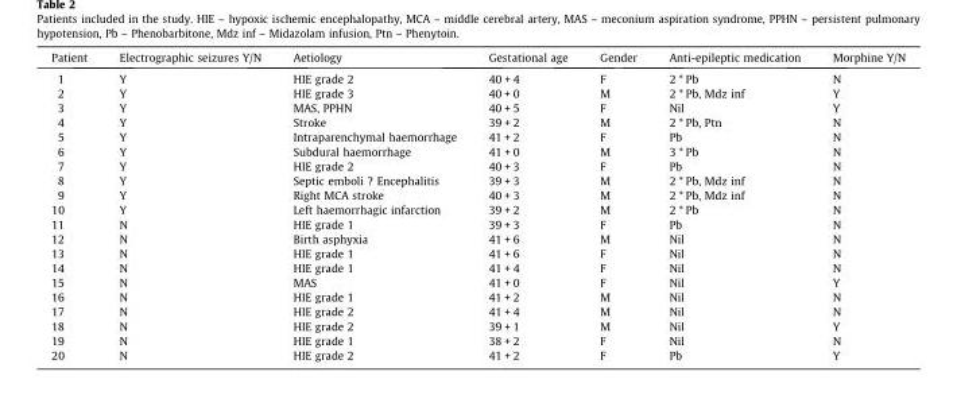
<table><thead><tr><td>Patient</td><td>Electrographic seizures Y/N</td><td>Aetiology</td><td>Gestational age</td><td>Gender</td><td>Anti-epileptic medication</td><td>Morphine Y/N</td></tr></thead><tbody><tr><td>1</td><td>Y</td><td>HIE grade 2</td><td>40 + 4</td><td>F</td><td>2 * Pb</td><td>N</td></tr><tr><td>2</td><td>Y</td><td>HIE grade 3</td><td>40 + 0</td><td>M</td><td>2 * Pb, Mdz inf</td><td>Y</td></tr><tr><td>3</td><td>Y</td><td>MAS, PPHN</td><td>40 + 5</td><td>F</td><td>Nil</td><td>Y</td></tr><tr><td>4</td><td>Y</td><td>Stroke</td><td>39 + 2</td><td>M</td><td>2 * Pb, Ptn</td><td>N</td></tr><tr><td>5</td><td>Y</td><td>Intraparenchymal haemorrhage</td><td>41 + 2</td><td>F</td><td>Pb</td><td>N</td></tr><tr><td>6</td><td>Y</td><td>Subdural haemorrhage</td><td>41 + 0</td><td>M</td><td>3 * Pb</td><td>N</td></tr><tr><td>7</td><td>Y</td><td>HIE grade 2</td><td>40 + 3</td><td>F</td><td>Pb</td><td>N</td></tr><tr><td>8</td><td>Y</td><td>Septic emboli ? Encephalitis</td><td>39 + 3</td><td>M</td><td>2 * Pb, Mdz inf</td><td>N</td></tr><tr><td>9</td><td>Y</td><td>Right MCA stroke</td><td>40 + 3</td><td>M</td><td>2 * Pb, Mdz inf</td><td>N</td></tr><tr><td>10</td><td>Y</td><td>Left haemorrhagic infarction</td><td>39 + 2</td><td>M</td><td>2 * Pb</td><td>N</td></tr><tr><td>11</td><td>N</td><td>HIE grade 1</td><td>39 + 3</td><td>F</td><td>Pb</td><td>N</td></tr><tr><td>12</td><td>N</td><td>Birth asphyxia</td><td>41 + 6</td><td>M</td><td>Nil</td><td>N</td></tr><tr><td>13</td><td>N</td><td>HIE grade 1</td><td>41 + 6</td><td>F</td><td>Nil</td><td>N</td></tr><tr><td>14</td><td>N</td><td>HIE grade 1</td><td>41 + 4</td><td>F</td><td>Nil</td><td>N</td></tr><tr><td>15</td><td>N</td><td>MAS</td><td>41 + 0</td><td>F</td><td>Nil</td><td>Y</td></tr><tr><td>16</td><td>N</td><td>HIE grade 1</td><td>41 + 2</td><td>M</td><td>Nil</td><td>N</td></tr><tr><td>17</td><td>N</td><td>HIE grade 2</td><td>41 + 4</td><td>M</td><td>Nil</td><td>N</td></tr><tr><td>18</td><td>N</td><td>HIE grade 2</td><td>39 + 1</td><td>M</td><td>Nil</td><td>Y</td></tr><tr><td>19</td><td>N</td><td>HIE grade 1</td><td>38 + 2</td><td>F</td><td>Nil</td><td>N</td></tr><tr><td>20</td><td>N</td><td>HIE grade 2</td><td>41 + 2</td><td>F</td><td>Pb</td><td>Y</td></tr></tbody></table>